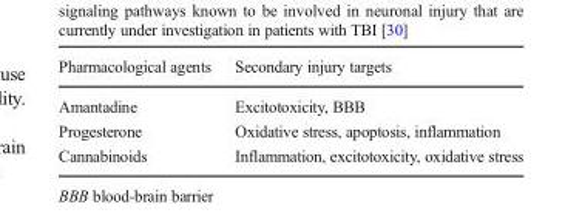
<table><thead><tr><td>Pharmacological agents</td><td>Secondary injury targets</td></tr></thead><tbody><tr><td>Amantadine</td><td>Excitotoxicity, BBB</td></tr><tr><td>Progesterone</td><td>Oxidative stress, apoptosis, inflammation</td></tr><tr><td>Cannabinoids</td><td>Inflammation, excitotoxicity, oxidative stress</td></tr></tbody></table>